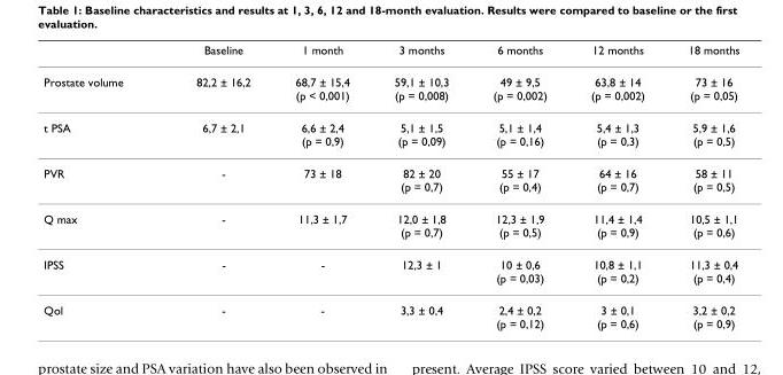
<table><thead><tr><td></td><td>Baseline</td><td>1 month</td><td>3 months</td><td>6 months</td><td>12 months</td><td>18 months</td></tr></thead><tbody><tr><td>Prostate volume</td><td>82,2 ± 16,2</td><td>68,7 ± 15,4 (p &lt; 0,001)</td><td>59,1 ± 10,3 (p = 0,008)</td><td>49 ± 9,5 (p = 0,002)</td><td>63,8 ± 14 (p = 0,002)</td><td>73 ± 16 (p = 0,05)</td></tr><tr><td>t PSA</td><td>6,7 ± 2,1</td><td>6,6 ± 2,4 (p = 0,9)</td><td>5,1 ± 1,5 (p = 0,09)</td><td>5,1 ± 1,4 (p = 0,16)</td><td>5,4 ± 1,3 (p = 0,3)</td><td>5,9 ± 1,6 (p = 0,5)</td></tr><tr><td>PVR</td><td>-</td><td>73 ± 18</td><td>82 ± 20 (p = 0,7)</td><td>55 ± 17 (p = 0,4)</td><td>64 ± 16 (p = 0,7)</td><td>58 ± 11 (p = 0,5)</td></tr><tr><td>Q max</td><td>-</td><td>11,3 ± 1,7</td><td>12,0 ± 1,8 (p = 0,7)</td><td>12,3 ± 1,9 (p = 0,5)</td><td>11,4 ± 1,4 (p = 0,9)</td><td>10,5 ± 1,1 (p = 0,6)</td></tr><tr><td>IPSS</td><td>-</td><td>-</td><td>12,3 ± 1</td><td>10 ± 0,6 (p = 0,03)</td><td>10,8 ± 1,1 (p = 0,2)</td><td>11,3 ± 0,4 (p = 0,4)</td></tr><tr><td>Qol</td><td>-</td><td>-</td><td>3,3 ± 0,4</td><td>2,4 ± 0,2 (p = 0,12)</td><td>3 ± 0,1 (p = 0,6)</td><td>3,2 ± 0,2 (p = 0,9)</td></tr></tbody></table>